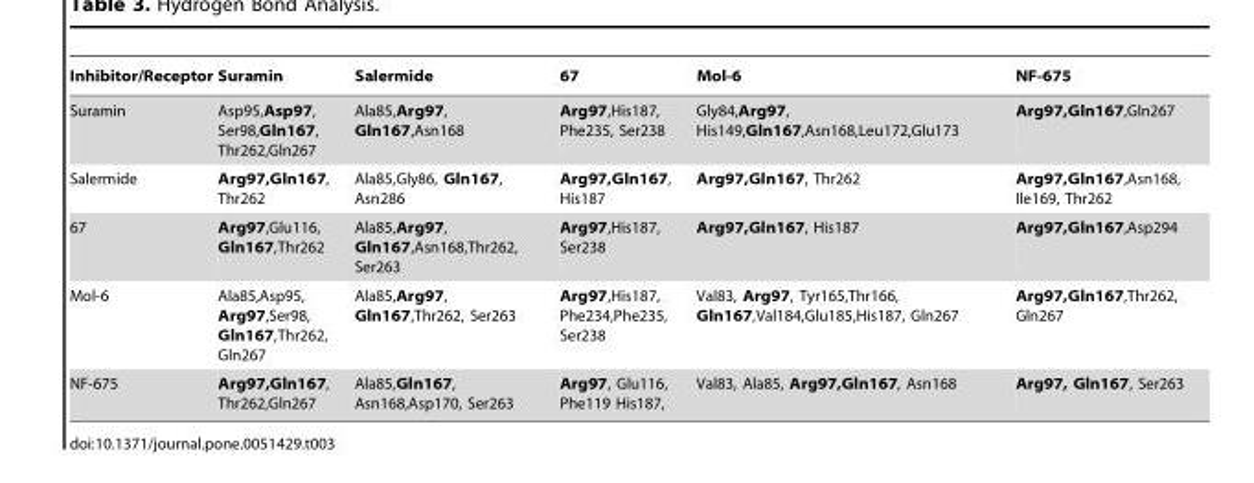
<table><thead><tr><td>Inhibitor/Receptor</td><td>Suramin</td><td>Salermide</td><td>67</td><td>Mol-6</td><td>NF-675</td></tr></thead><tbody><tr><td>Suramin</td><td>Asp95,Asp97, Ser98,Gln167, Thr262,Gln267</td><td>Ala85,Arg97, Gln167,Asn168</td><td>Arg97,His187, Phe235, Ser238</td><td>Gly84,Arg97, His149,Gln167,Asn168,Leu172,Glu173</td><td>Arg97,Gln167,Gln267</td></tr><tr><td>Salermide</td><td>Arg97,Gln167, Thr262</td><td>Ala85,Gly86, Gln167, Asn286</td><td>Arg97,Gln167, His187</td><td>Arg97,Gln167, Thr262</td><td>Arg97,Gln167,Asn168, Ile169, Thr262</td></tr><tr><td>67</td><td>Arg97,Glu116, Gln167,Thr262</td><td>Ala85,Arg97, Gln167,Asn168,Thr262, Ser263</td><td>Arg97,His187, Ser238</td><td>Arg97,Gln167, His187</td><td>Arg97,Gln167,Asp294</td></tr><tr><td>Mol-6</td><td>Ala85,Asp95, Arg97,Ser98, Gln167,Thr262, Gln267</td><td>Ala85,Arg97, Gln167,Thr262, Ser263</td><td>Arg97,His187, Phe234,Phe235, Ser238</td><td>Val83, Arg97, Tyr165,Thr166, Gln167,Val184,Glu185,His187, Gln267</td><td>Arg97,Gln167,Thr262, Gln267</td></tr><tr><td>NF-675</td><td>Arg97,Gln167, Thr262,Gln267</td><td>Ala85,Gln167, Asn168,Asp170, Ser263</td><td>Arg97, Glu116, Phe119 His187,</td><td>Val83, Ala85, Arg97,Gln167, Asn168</td><td>Arg97, Gln167, Ser263</td></tr></tbody></table>